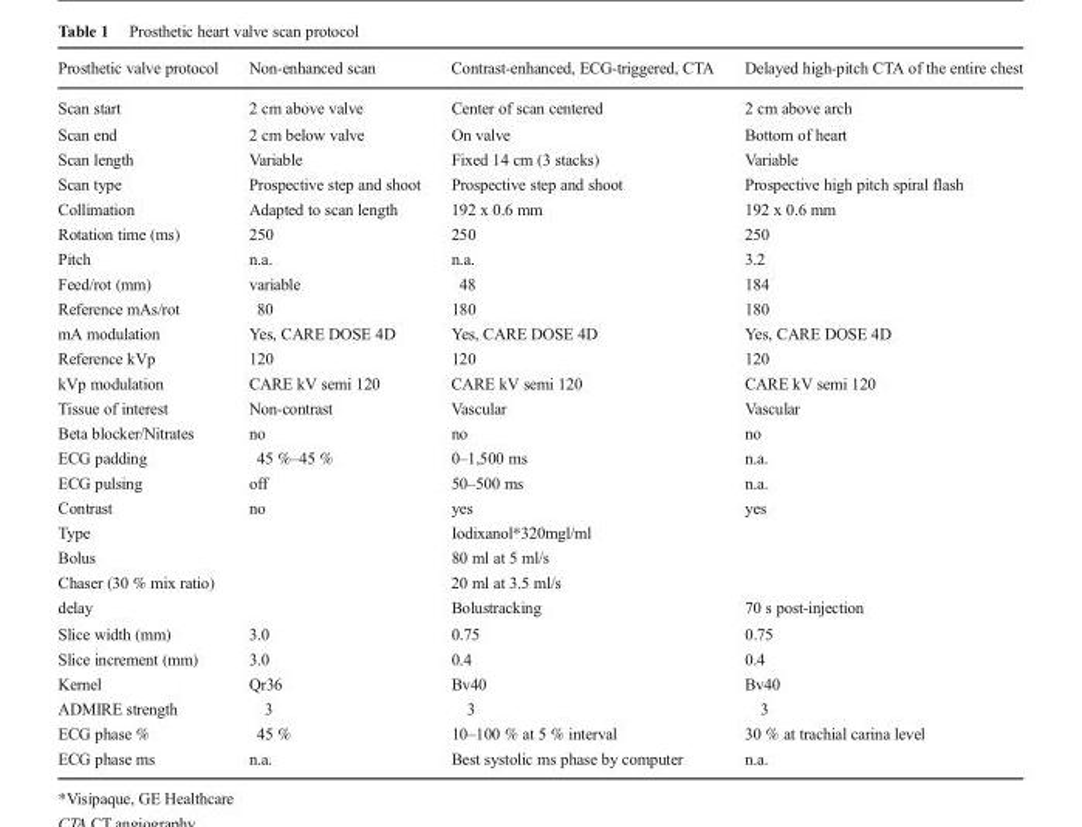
<table><thead><tr><td>Prosthetic valve protocol</td><td>Non-enhanced scan</td><td>Contrast-enhanced, ECG-triggered, CTA</td><td>Delayed high-pitch CTA of the entire chest</td></tr></thead><tbody><tr><td>Scan start</td><td>2 cm above valve</td><td>Center of scan centered</td><td>2 cm above arch</td></tr><tr><td>Scan end</td><td>2 cm below valve</td><td>On valve</td><td>Bottom of heart</td></tr><tr><td>Scan length</td><td>Variable</td><td>Fixed 14 cm (3 stacks)</td><td>Variable</td></tr><tr><td>Scan type</td><td>Prospective step and shoot</td><td>Prospective step and shoot</td><td>Prospective high pitch spiral flash</td></tr><tr><td>Collimation</td><td>Adapted to scan length</td><td>192 x 0.6 mm</td><td>192 x 0.6 mm</td></tr><tr><td>Rotation time (ms)</td><td>250</td><td>250</td><td>250</td></tr><tr><td>Pitch</td><td>n.a.</td><td>n.a.</td><td>3.2</td></tr><tr><td>Feed/rot (mm)</td><td>variable</td><td>48</td><td>184</td></tr><tr><td>Reference mAs/rot</td><td>80</td><td>180</td><td>180</td></tr><tr><td>mA modulation</td><td>Yes, CARE DOSE 4D</td><td>Yes, CARE DOSE 4D</td><td>Yes, CARE DOSE 4D</td></tr><tr><td>Reference kVp</td><td>120</td><td>120</td><td>120</td></tr><tr><td>kVp modulation</td><td>CARE kV semi 120</td><td>CARE kV semi 120</td><td>CARE kV semi 120</td></tr><tr><td>Tissue of interest</td><td>Non-contrast</td><td>Vascular</td><td>Vascular</td></tr><tr><td>Beta blocker/Nitrates</td><td>no</td><td>no</td><td>no</td></tr><tr><td>ECG padding</td><td>45 %–45 %</td><td>0–1,500 ms</td><td>n.a.</td></tr><tr><td>ECG pulsing</td><td>off</td><td>50–500 ms</td><td>n.a.</td></tr><tr><td>Contrast</td><td>no</td><td>yes</td><td>yes</td></tr><tr><td>Type</td><td></td><td>Iodixanol*320mgl/ml</td><td></td></tr><tr><td>Bolus</td><td></td><td>80 ml at 5 ml/s</td><td></td></tr><tr><td>Chaser (30 % mix ratio)</td><td></td><td>20 ml at 3.5 ml/s</td><td></td></tr><tr><td>delay</td><td></td><td>Bolustracking</td><td>70 s post-injection</td></tr><tr><td>Slice width (mm)</td><td>3.0</td><td>0.75</td><td>0.75</td></tr><tr><td>Slice increment (mm)</td><td>3.0</td><td>0.4</td><td>0.4</td></tr><tr><td>Kernel</td><td>Qr36</td><td>Bv40</td><td>Bv40</td></tr><tr><td>ADMIRE strength</td><td>3</td><td>3</td><td>3</td></tr><tr><td>ECG phase %</td><td>45 %</td><td>10–100 % at 5 % interval</td><td>30 % at trachial carina level</td></tr><tr><td>ECG phase ms</td><td>n.a.</td><td>Best systolic ms phase by computer</td><td>n.a.</td></tr></tbody></table>